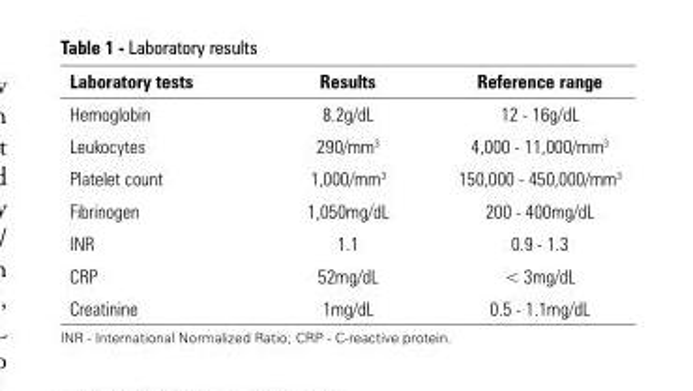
<table><thead><tr><td>Laboratory tests</td><td>Results</td><td>Reference range</td></tr></thead><tbody><tr><td>Hemoglobin</td><td>8.2g/dL</td><td>12 - 16g/dL</td></tr><tr><td>Leukocytes</td><td>290/mm<sup>3</sup></td><td>4,000 - 11,000/mm<sup>3</sup></td></tr><tr><td>Platelet count</td><td>1,000/mm<sup>3</sup></td><td>150,000 - 450,000/mm<sup>3</sup></td></tr><tr><td>Fibrinogen</td><td>1,050mg/dL</td><td>200 - 400mg/dL</td></tr><tr><td>INR</td><td>1.1</td><td>0.9 - 1.3</td></tr><tr><td>CRP</td><td>52mg/dL</td><td>&lt; 3mg/dL</td></tr><tr><td>Creatinine</td><td>1mg/dL</td><td>0.5 - 1.1mg/dL</td></tr></tbody></table>